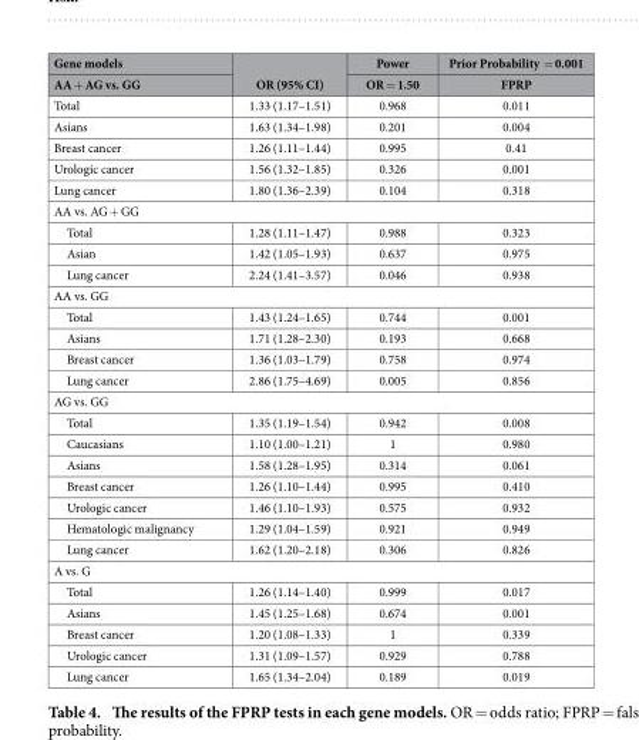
<table><thead><tr><td rowspan="2">Gene models AA + AG vs. GG</td><td rowspan="2">OR (95% CI)</td><td rowspan="2">Power OR = 1.50</td><td rowspan="2">Prior Probability = 0.001 FPRP</td></tr><tr></tr></thead><tbody><tr><td>Total</td><td>1.33 (1.17–1.51)</td><td>0.968</td><td>0.011</td></tr><tr><td>Asians</td><td>1.63 (1.34–1.98)</td><td>0.201</td><td>0.004</td></tr><tr><td>Breast cancer</td><td>1.26 (1.11–1.44)</td><td>0.995</td><td>0.41</td></tr><tr><td>Urologic cancer</td><td>1.56 (1.32–1.85)</td><td>0.326</td><td>0.001</td></tr><tr><td>Lung cancer</td><td>1.80 (1.36–2.39)</td><td>0.104</td><td>0.318</td></tr><tr><td colspan="4">AA vs. AG + GG</td></tr><tr><td>Total</td><td>1.28 (1.11–1.47)</td><td>0.988</td><td>0.323</td></tr><tr><td>Asian</td><td>1.42 (1.05–1.93)</td><td>0.637</td><td>0.975</td></tr><tr><td>Lung cancer</td><td>2.24 (1.41–3.57)</td><td>0.046</td><td>0.938</td></tr><tr><td colspan="4">AA vs. GG</td></tr><tr><td>Total</td><td>1.43 (1.24–1.65)</td><td>0.744</td><td>0.001</td></tr><tr><td>Asians</td><td>1.71 (1.28–2.30)</td><td>0.193</td><td>0.668</td></tr><tr><td>Breast cancer</td><td>1.36 (1.03–1.79)</td><td>0.758</td><td>0.974</td></tr><tr><td>Lung cancer</td><td>2.86 (1.75–4.69)</td><td>0.005</td><td>0.856</td></tr><tr><td colspan="4">AG vs. GG</td></tr><tr><td>Total</td><td>1.35 (1.19–1.54)</td><td>0.942</td><td>0.008</td></tr><tr><td>Caucasians</td><td>1.10 (1.00–1.21)</td><td>1</td><td>0.980</td></tr><tr><td>Asians</td><td>1.58 (1.28–1.95)</td><td>0.314</td><td>0.061</td></tr><tr><td>Breast cancer</td><td>1.26 (1.10–1.44)</td><td>0.995</td><td>0.410</td></tr><tr><td>Urologic cancer</td><td>1.46 (1.10–1.93)</td><td>0.575</td><td>0.932</td></tr><tr><td>Hematologic malignancy</td><td>1.29 (1.04–1.59)</td><td>0.921</td><td>0.949</td></tr><tr><td>Lung cancer</td><td>1.62 (1.20–2.18)</td><td>0.306</td><td>0.826</td></tr><tr><td colspan="4">A vs. G</td></tr><tr><td>Total</td><td>1.26 (1.14–1.40)</td><td>0.999</td><td>0.017</td></tr><tr><td>Asians</td><td>1.45 (1.25–1.68)</td><td>0.674</td><td>0.001</td></tr><tr><td>Breast cancer</td><td>1.20 (1.08–1.33)</td><td>1</td><td>0.339</td></tr><tr><td>Urologic cancer</td><td>1.31 (1.09–1.57)</td><td>0.929</td><td>0.788</td></tr><tr><td>Lung cancer</td><td>1.65 (1.34–2.04)</td><td>0.189</td><td>0.019</td></tr></tbody></table>